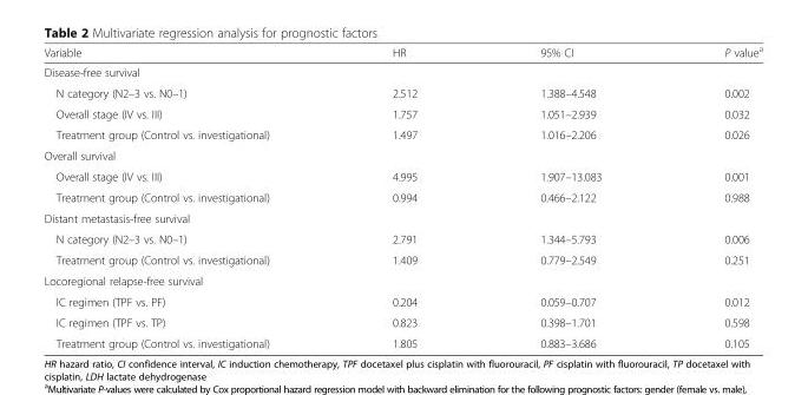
<table><thead><tr><td>Variable</td><td>HR</td><td>95% CI</td><td>P value<sup>a</sup></td></tr></thead><tbody><tr><td colspan="4">Disease-free survival</td></tr><tr><td>N category (N2–3 vs. N0–1)</td><td>2.512</td><td>1.388–4.548</td><td>0.002</td></tr><tr><td>Overall stage (IV vs. III)</td><td>1.757</td><td>1.051–2.939</td><td>0.032</td></tr><tr><td>Treatment group (Control vs. investigational)</td><td>1.497</td><td>1.016–2.206</td><td>0.026</td></tr><tr><td colspan="4">Overall survival</td></tr><tr><td>Overall stage (IV vs. III)</td><td>4.995</td><td>1.907–13.083</td><td>0.001</td></tr><tr><td>Treatment group (Control vs. investigational)</td><td>0.994</td><td>0.466–2.122</td><td>0.988</td></tr><tr><td colspan="4">Distant metastasis-free survival</td></tr><tr><td>N category (N2–3 vs. N0–1)</td><td>2.791</td><td>1.344–5.793</td><td>0.006</td></tr><tr><td>Treatment group (Control vs. investigational)</td><td>1.409</td><td>0.779–2.549</td><td>0.251</td></tr><tr><td colspan="4">Locoregional relapse-free survival</td></tr><tr><td>IC regimen (TPF vs. PF)</td><td>0.204</td><td>0.059–0.707</td><td>0.012</td></tr><tr><td>IC regimen (TPF vs. TP)</td><td>0.823</td><td>0.398–1.701</td><td>0.598</td></tr><tr><td>Treatment group (Control vs. investigational)</td><td>1.805</td><td>0.883–3.686</td><td>0.105</td></tr></tbody></table>